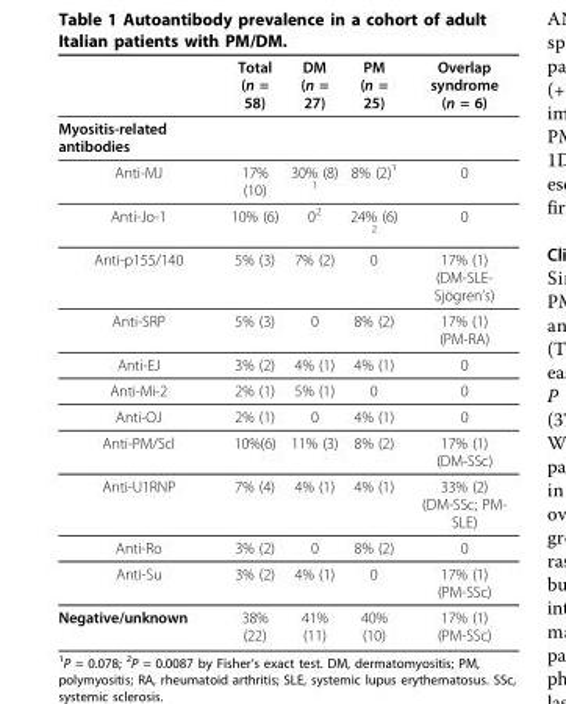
<table><thead><tr><td></td><td>Total (n = 58)</td><td>DM (n = 27)</td><td>PM (n = 25)</td><td>Overlap syndrome (n = 6)</td></tr></thead><tbody><tr><td colspan="5">Myositis-related antibodies</td></tr><tr><td>Anti-MJ</td><td>17% (10)</td><td>30% (8) <sup>1</sup></td><td>8% (2)<sup>1</sup></td><td>0</td></tr><tr><td>Anti-Jo-1</td><td>10% (6)</td><td>0<sup>2</sup></td><td>24% (6) <sup>2</sup></td><td>0</td></tr><tr><td>Anti-p155/140</td><td>5% (3)</td><td>7% (2)</td><td>0</td><td>17% (1) (DM-SLE- Sjögren’s)</td></tr><tr><td>Anti-SRP</td><td>5% (3)</td><td>0</td><td>8% (2)</td><td>17% (1) (PM-RA)</td></tr><tr><td>Anti-EJ</td><td>3% (2)</td><td>4% (1)</td><td>4% (1)</td><td>0</td></tr><tr><td>Anti-Mi-2</td><td>2% (1)</td><td>5% (1)</td><td>0</td><td>0</td></tr><tr><td>Anti-OJ</td><td>2% (1)</td><td>0</td><td>4% (1)</td><td>0</td></tr><tr><td>Anti-PM/Scl</td><td>10%(6)</td><td>11% (3)</td><td>8% (2)</td><td>17% (1) (DM-SSc)</td></tr><tr><td>Anti-U1RNP</td><td>7% (4)</td><td>4% (1)</td><td>4% (1)</td><td>33% (2) (DM-SSc; PM- SLE)</td></tr><tr><td>Anti-Ro</td><td>3% (2)</td><td>0</td><td>8% (2)</td><td>0</td></tr><tr><td>Anti-Su</td><td>3% (2)</td><td>4% (1)</td><td>0</td><td>17% (1) (PM-SSc)</td></tr><tr><td>Negative/unknown</td><td>38% (22)</td><td>41% (11)</td><td>40% (10)</td><td>17% (1) (PM-SSc)</td></tr></tbody></table>